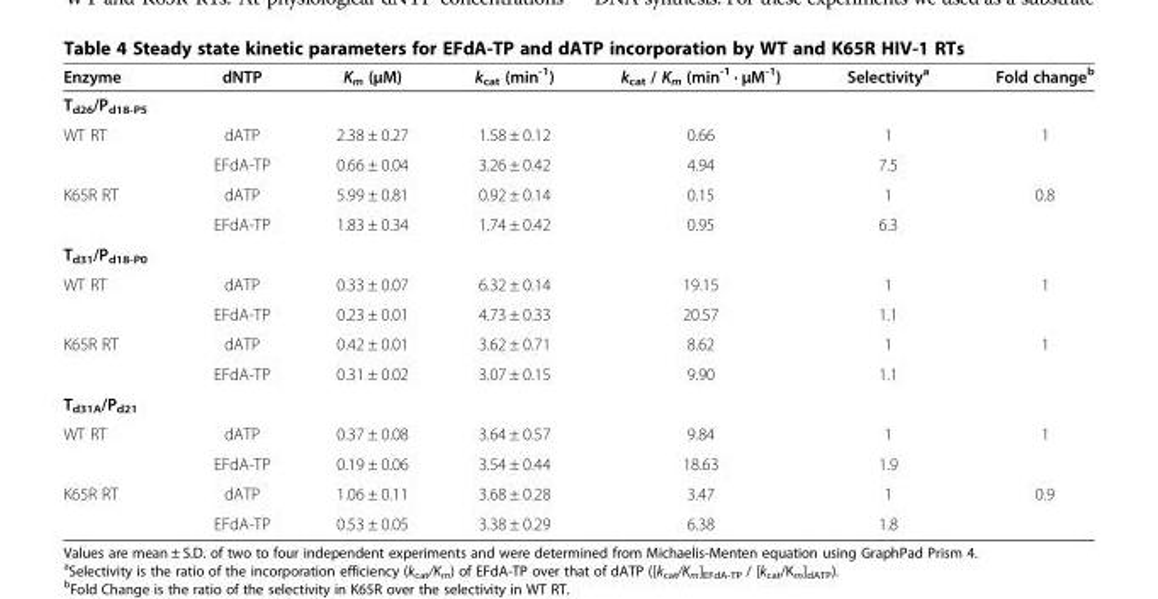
<table><thead><tr><td>Enzyme</td><td>dNTP</td><td>K<sub>m</sub> (μM)</td><td>k<sub>cat</sub> (min<sup>-1</sup>)</td><td>k<sub>cat</sub> / K<sub>m</sub> (min<sup>-1</sup> · μM<sup>-1</sup>)</td><td>Selectivity<sup>a</sup></td><td>Fold change<sup>b</sup></td></tr></thead><tbody><tr><td colspan="7">T<sub>d26</sub>/P<sub>d18-P5</sub></td></tr><tr><td rowspan="2">WT RT</td><td>dATP</td><td>2.38 ± 0.27</td><td>1.58 ± 0.12</td><td>0.66</td><td>1</td><td rowspan="2">1</td></tr><tr><td>EFdA-TP</td><td>0.66 ± 0.04</td><td>3.26 ± 0.42</td><td>4.94</td><td>7.5</td></tr><tr><td rowspan="2">K65R RT</td><td>dATP</td><td>5.99 ± 0.81</td><td>0.92 ± 0.14</td><td>0.15</td><td>1</td><td rowspan="2">0.8</td></tr><tr><td>EFdA-TP</td><td>1.83 ± 0.34</td><td>1.74 ± 0.42</td><td>0.95</td><td>6.3</td></tr><tr><td colspan="7">T<sub>d31</sub>/P<sub>d18-P0</sub></td></tr><tr><td rowspan="2">WT RT</td><td>dATP</td><td>0.33 ± 0.07</td><td>6.32 ± 0.14</td><td>19.15</td><td>1</td><td rowspan="2">1</td></tr><tr><td>EFdA-TP</td><td>0.23 ± 0.01</td><td>4.73 ± 0.33</td><td>20.57</td><td>1.1</td></tr><tr><td rowspan="2">K65R RT</td><td>dATP</td><td>0.42 ± 0.01</td><td>3.62 ± 0.71</td><td>8.62</td><td>1</td><td rowspan="2">1</td></tr><tr><td>EFdA-TP</td><td>0.31 ± 0.02</td><td>3.07 ± 0.15</td><td>9.90</td><td>1.1</td></tr><tr><td colspan="7">T<sub>d31A</sub>/P<sub>d21</sub></td></tr><tr><td rowspan="2">WT RT</td><td>dATP</td><td>0.37 ± 0.08</td><td>3.64 ± 0.57</td><td>9.84</td><td>1</td><td rowspan="2">1</td></tr><tr><td>EFdA-TP</td><td>0.19 ± 0.06</td><td>3.54 ± 0.44</td><td>18.63</td><td>1.9</td></tr><tr><td rowspan="2">K65R RT</td><td>dATP</td><td>1.06 ± 0.11</td><td>3.68 ± 0.28</td><td>3.47</td><td>1</td><td>0.9</td></tr><tr><td>EFdA-TP</td><td>0.53 ± 0.05</td><td>3.38 ± 0.29</td><td>6.38</td><td>1.8</td><td></td></tr></tbody></table>